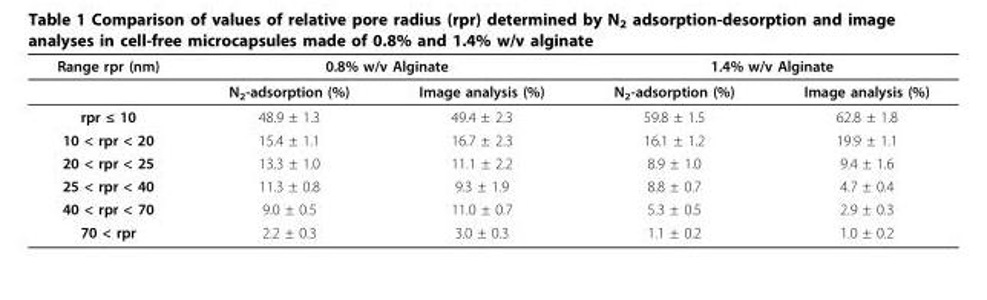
<table><thead><tr><td rowspan="2">Range rpr (nm)</td><td colspan="2">0.8% w/v Alginate</td><td colspan="2">1.4% w/v Alginate</td></tr><tr><td>N<sub>2</sub>-adsorption (%)</td><td>Image analysis (%)</td><td>N<sub>2</sub>-adsorption (%)</td><td>Image analysis (%)</td></tr></thead><tbody><tr><td>rpr ≤ 10</td><td>48.9 ± 1.3</td><td>49.4 ± 2.3</td><td>59.8 ± 1.5</td><td>62.8 ± 1.8</td></tr><tr><td>10 &lt; rpr &lt; 20</td><td>15.4 ± 1.1</td><td>16.7 ± 2.3</td><td>16.1 ± 1.2</td><td>19.9 ± 1.1</td></tr><tr><td>20 &lt; rpr &lt; 25</td><td>13.3 ± 1.0</td><td>11.1 ± 2.2</td><td>8.9 ± 1.0</td><td>9.4 ± 1.6</td></tr><tr><td>25 &lt; rpr &lt; 40</td><td>11.3 ± 0.8</td><td>9.3 ± 1.9</td><td>8.8 ± 0.7</td><td>4.7 ± 0.4</td></tr><tr><td>40 &lt; rpr &lt; 70</td><td>9.0 ± 0.5</td><td>11.0 ± 0.7</td><td>5.3 ± 0.5</td><td>2.9 ± 0.3</td></tr><tr><td>70 &lt; rpr</td><td>2.2 ± 0.3</td><td>3.0 ± 0.3</td><td>1.1 ± 0.2</td><td>1.0 ± 0.2</td></tr></tbody></table>